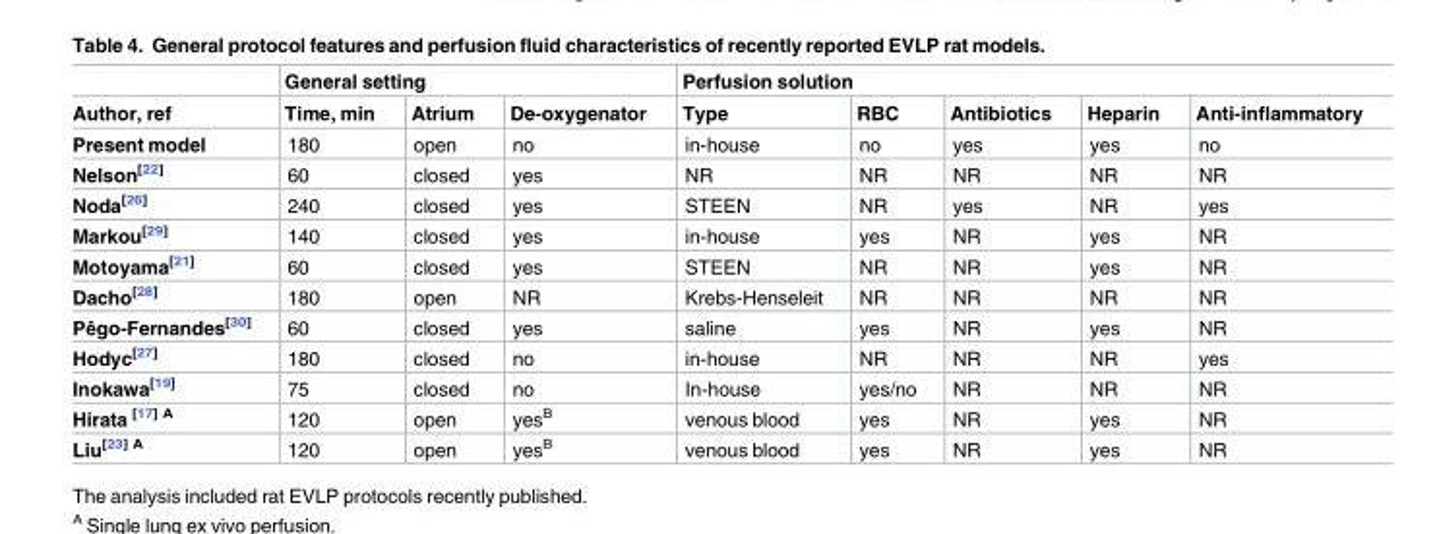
<table><thead><tr><td rowspan="2">Author, ref</td><td colspan="3">General setting</td><td colspan="5">Perfusion solution</td></tr><tr><td>Time, min</td><td>Atrium</td><td>De-oxygenator</td><td>Type</td><td>RBC</td><td>Antibiotics</td><td>Heparin</td><td>Anti-inflammatory</td></tr></thead><tbody><tr><td>Present model</td><td>180</td><td>open</td><td>no</td><td>in-house</td><td>no</td><td>yes</td><td>yes</td><td>no</td></tr><tr><td>Nelson<sup>[22]</sup></td><td>60</td><td>closed</td><td>yes</td><td>NR</td><td>NR</td><td>NR</td><td>NR</td><td>NR</td></tr><tr><td>Noda<sup>[26]</sup></td><td>240</td><td>closed</td><td>yes</td><td>STEEN</td><td>NR</td><td>yes</td><td>NR</td><td>yes</td></tr><tr><td>Markou<sup>[29]</sup></td><td>140</td><td>closed</td><td>yes</td><td>in-house</td><td>yes</td><td>NR</td><td>yes</td><td>NR</td></tr><tr><td>Motoyama<sup>[21]</sup></td><td>60</td><td>closed</td><td>yes</td><td>STEEN</td><td>NR</td><td>NR</td><td>yes</td><td>NR</td></tr><tr><td>Dacho<sup>[28]</sup></td><td>180</td><td>open</td><td>NR</td><td>Krebs-Henseleit</td><td>NR</td><td>NR</td><td>NR</td><td>NR</td></tr><tr><td>Pêgo-Fernandes<sup>[30]</sup></td><td>60</td><td>closed</td><td>yes</td><td>saline</td><td>yes</td><td>NR</td><td>yes</td><td>NR</td></tr><tr><td>Hodyc<sup>[27]</sup></td><td>180</td><td>closed</td><td>no</td><td>in-house</td><td>NR</td><td>NR</td><td>NR</td><td>yes</td></tr><tr><td>Inokawa<sup>[19]</sup></td><td>75</td><td>closed</td><td>no</td><td>In-house</td><td>yes/no</td><td>NR</td><td>NR</td><td>NR</td></tr><tr><td>Hirata <sup>[17] A</sup></td><td>120</td><td>open</td><td>yes<sup>B</sup></td><td>venous blood</td><td>yes</td><td>NR</td><td>yes</td><td>NR</td></tr><tr><td>Liu<sup>[23] A</sup></td><td>120</td><td>open</td><td>yes<sup>B</sup></td><td>venous blood</td><td>yes</td><td>NR</td><td>yes</td><td>NR</td></tr></tbody></table>